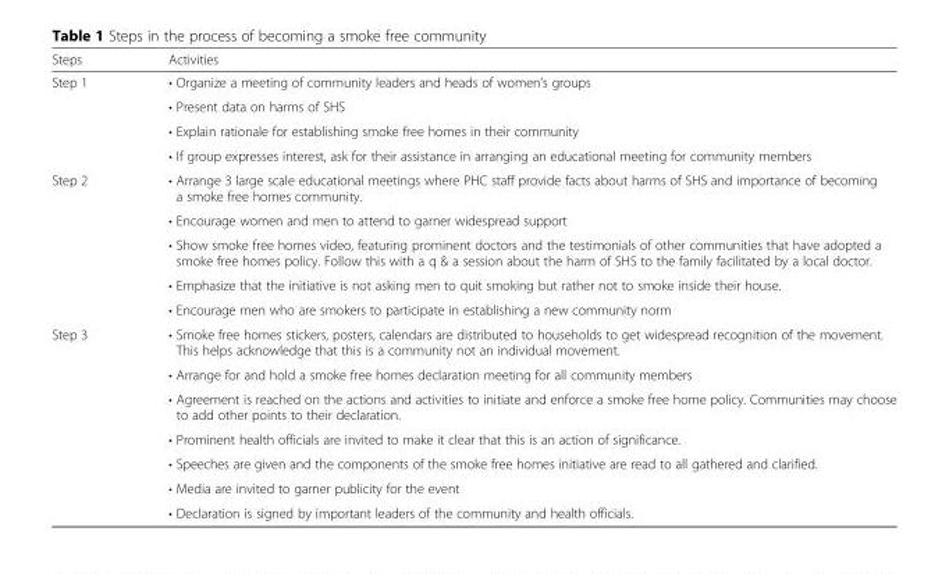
<table><thead><tr><td>Steps</td><td>Activities</td></tr></thead><tbody><tr><td rowspan="4">Step 1</td><td>• Organize a meeting of community leaders and heads of women’s groups</td></tr><tr><td>• Present data on harms of SHS</td></tr><tr><td>• Explain rationale for establishing smoke free homes in their community</td></tr><tr><td>• If group expresses interest, ask for their assistance in arranging an educational meeting for community members</td></tr><tr><td rowspan="5">Step 2</td><td>• Arrange 3 large scale educational meetings where PHC staff provide facts about harms of SHS and importance of becoming a smoke free homes community.</td></tr><tr><td>• Encourage women and men to attend to garner widespread support</td></tr><tr><td>• Show smoke free homes video, featuring prominent doctors and the testimonials of other communities that have adopted a smoke free homes policy. Follow this with a q &amp; a session about the harm of SHS to the family facilitated by a local doctor.</td></tr><tr><td>• Emphasize that the initiative is not asking men to quit smoking but rather not to smoke inside their house.</td></tr><tr><td>• Encourage men who are smokers to participate in establishing a new community norm</td></tr><tr><td rowspan="7">Step 3</td><td>• Smoke free homes stickers, posters, calendars are distributed to households to get widespread recognition of the movement. This helps acknowledge that this is a community not an individual movement.</td></tr><tr><td>• Arrange for and hold a smoke free homes declaration meeting for all community members</td></tr><tr><td>• Agreement is reached on the actions and activities to initiate and enforce a smoke free home policy. Communities may choose to add other points to their declaration.</td></tr><tr><td>• Prominent health officials are invited to make it clear that this is an action of significance.</td></tr><tr><td>• Speeches are given and the components of the smoke free homes initiative are read to all gathered and clarified.</td></tr><tr><td>• Media are invited to garner publicity for the event</td></tr><tr><td>• Declaration is signed by important leaders of the community and health officials.</td></tr></tbody></table>